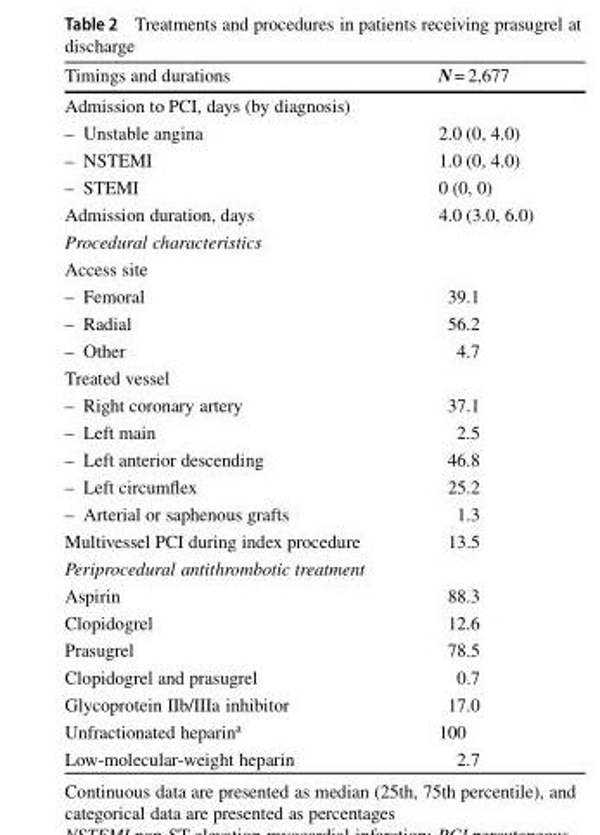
<table><thead><tr><td>Timings and durations</td><td>N= 2,677</td></tr></thead><tbody><tr><td colspan="2">Admission to PCI, days (by diagnosis)</td></tr><tr><td>– Unstable angina</td><td>2.0 (0, 4.0)</td></tr><tr><td>– NSTEMI</td><td>1.0 (0, 4.0)</td></tr><tr><td>– STEMI</td><td>0 (0, 0)</td></tr><tr><td>Admission duration, days</td><td>4.0 (3.0, 6.0)</td></tr><tr><td colspan="2">Procedural characteristics</td></tr><tr><td colspan="2">Access site</td></tr><tr><td>– Femoral</td><td>39.1</td></tr><tr><td>– Radial</td><td>56.2</td></tr><tr><td>– Other</td><td>4.7</td></tr><tr><td colspan="2">Treated vessel</td></tr><tr><td>– Right coronary artery</td><td>37.1</td></tr><tr><td>– Left main</td><td>2.5</td></tr><tr><td>– Left anterior descending</td><td>46.8</td></tr><tr><td>– Left circumflex</td><td>25.2</td></tr><tr><td>– Arterial or saphenous grafts</td><td>1.3</td></tr><tr><td>Multivessel PCI during index procedure</td><td>13.5</td></tr><tr><td colspan="2">Periprocedural antithrombotic treatment</td></tr><tr><td>Aspirin</td><td>88.3</td></tr><tr><td>Clopidogrel</td><td>12.6</td></tr><tr><td>Prasugrel</td><td>78.5</td></tr><tr><td>Clopidogrel and prasugrel</td><td>0.7</td></tr><tr><td>Glycoprotein IIb/IIIa inhibitor</td><td>17.0</td></tr><tr><td>Unfractionated heparin<sup>a</sup></td><td>100</td></tr><tr><td>Low-molecular-weight heparin</td><td>2.7</td></tr></tbody></table>